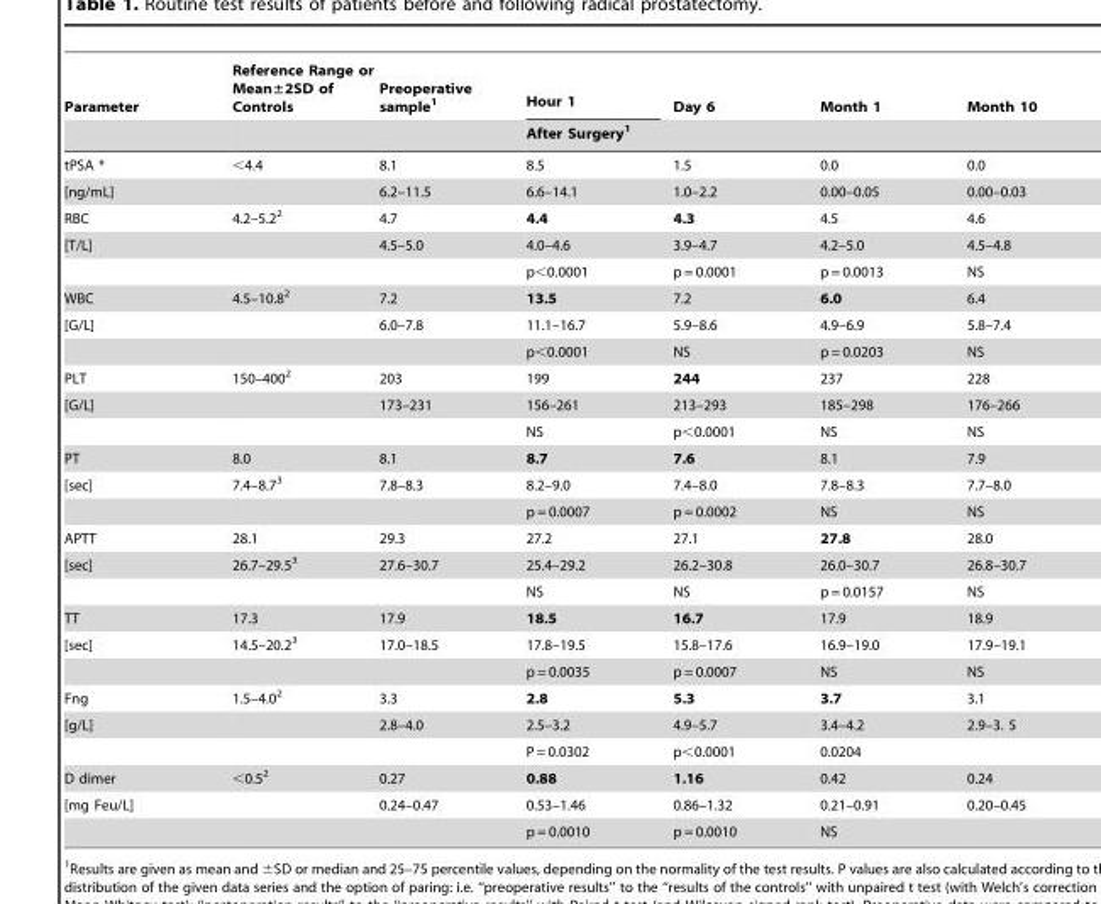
<table><thead><tr><td rowspan="2">Parameter</td><td rowspan="2">Reference Range or Mean±2SD of Controls</td><td rowspan="2">Preoperative sample<sup>1</sup></td><td>Hour 1</td><td>Day 6</td><td>Month 1</td><td>Month 10</td></tr><tr><td colspan="4">After Surgery<sup>1</sup></td></tr></thead><tbody><tr><td>tPSA *</td><td>&lt;4.4</td><td>8.1</td><td>8.5</td><td>1.5</td><td>0.0</td><td>0.0</td></tr><tr><td>[ng/mL]</td><td></td><td>6.2–11.5</td><td>6.6–14.1</td><td>1.0–2.2</td><td>0.00–0.05</td><td>0.00–0.03</td></tr><tr><td>RBC</td><td>4.2–5.2<sup>2</sup></td><td>4.7</td><td>4.4</td><td>4.3</td><td>4.5</td><td>4.6</td></tr><tr><td rowspan="2">[T/L]</td><td></td><td>4.5–5.0</td><td>4.0–4.6</td><td>3.9–4.7</td><td>4.2–5.0</td><td>4.5–4.8</td></tr><tr><td></td><td></td><td>p&lt;0.0001</td><td>p = 0.0001</td><td>p = 0.0013</td><td>NS</td></tr><tr><td>WBC</td><td>4.5–10.8<sup>2</sup></td><td>7.2</td><td>13.5</td><td>7.2</td><td>6.0</td><td>6.4</td></tr><tr><td rowspan="2">[G/L]</td><td></td><td>6.0–7.8</td><td>11.1–16.7</td><td>5.9–8.6</td><td>4.9–6.9</td><td>5.8–7.4</td></tr><tr><td></td><td></td><td>p&lt;0.0001</td><td>NS</td><td>p = 0.0203</td><td>NS</td></tr><tr><td>PLT</td><td>150–400<sup>2</sup></td><td>203</td><td>199</td><td>244</td><td>237</td><td>228</td></tr><tr><td rowspan="2">[G/L]</td><td></td><td>173–231</td><td>156–261</td><td>213–293</td><td>185–298</td><td>176–266</td></tr><tr><td></td><td></td><td>NS</td><td>p&lt;0.0001</td><td>NS</td><td>NS</td></tr><tr><td>PT</td><td>8.0</td><td>8.1</td><td>8.7</td><td>7.6</td><td>8.1</td><td>7.9</td></tr><tr><td rowspan="2">[sec]</td><td>7.4–8.7<sup>3</sup></td><td>7.8–8.3</td><td>8.2–9.0</td><td>7.4–8.0</td><td>7.8–8.3</td><td>7.7–8.0</td></tr><tr><td></td><td></td><td>p = 0.0007</td><td>p = 0.0002</td><td>NS</td><td>NS</td></tr><tr><td>APTT</td><td>28.1</td><td>29.3</td><td>27.2</td><td>27.1</td><td>27.8</td><td>28.0</td></tr><tr><td rowspan="2">[sec]</td><td>26.7–29.5<sup>3</sup></td><td>27.6–30.7</td><td>25.4–29.2</td><td>26.2–30.8</td><td>26.0–30.7</td><td>26.8–30.7</td></tr><tr><td></td><td></td><td>NS</td><td>NS</td><td>p = 0.0157</td><td>NS</td></tr><tr><td>TT</td><td>17.3</td><td>17.9</td><td>18.5</td><td>16.7</td><td>17.9</td><td>18.9</td></tr><tr><td rowspan="2">[sec]</td><td>14.5–20.2<sup>3</sup></td><td>17.0–18.5</td><td>17.8–19.5</td><td>15.8–17.6</td><td>16.9–19.0</td><td>17.9–19.1</td></tr><tr><td></td><td></td><td>p = 0.0035</td><td>p = 0.0007</td><td>NS</td><td>NS</td></tr><tr><td>Fng</td><td>1.5–4.0<sup>2</sup></td><td>3.3</td><td>2.8</td><td>5.3</td><td>3.7</td><td>3.1</td></tr><tr><td rowspan="2">[g/L]</td><td></td><td>2.8–4.0</td><td>2.5–3.2</td><td>4.9–5.7</td><td>3.4–4.2</td><td>2.9–3. 5</td></tr><tr><td></td><td></td><td>P = 0.0302</td><td>p&lt;0.0001</td><td>0.0204</td><td></td></tr><tr><td>D dimer</td><td>&lt;0.5<sup>2</sup></td><td>0.27</td><td>0.88</td><td>1.16</td><td>0.42</td><td>0.24</td></tr><tr><td rowspan="2">[mg Feu/L]</td><td></td><td>0.24–0.47</td><td>0.53–1.46</td><td>0.86–1.32</td><td>0.21–0.91</td><td>0.20–0.45</td></tr><tr><td></td><td></td><td>p = 0.0010</td><td>p = 0.0010</td><td>NS</td><td></td></tr></tbody></table>